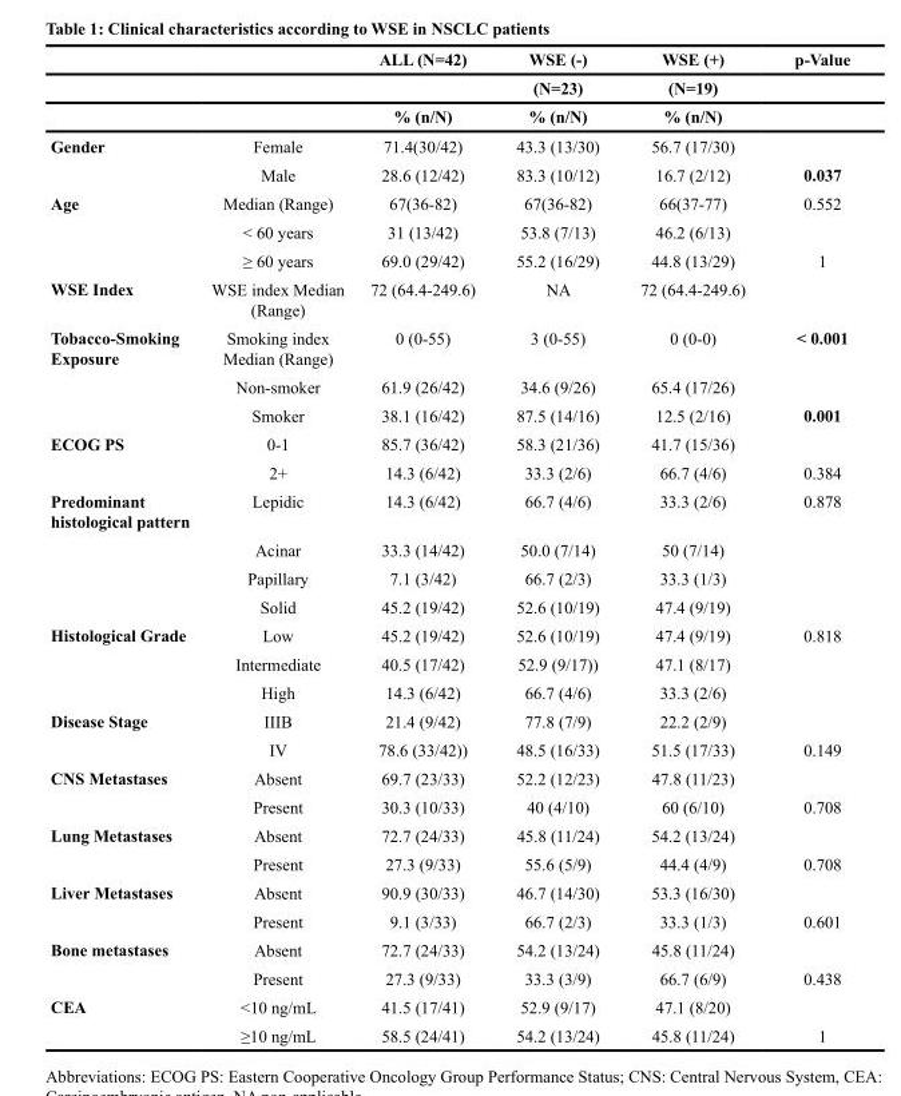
<table><thead><tr><td rowspan="3"></td><td rowspan="3"></td><td rowspan="3">ALL (N=42) % (n/N)</td><td rowspan="3">WSE (-) (N=23) % (n/N)</td><td rowspan="3">WSE (+) (N=19) % (n/N)</td><td rowspan="3">p-Value</td></tr><tr></tr><tr></tr></thead><tbody><tr><td rowspan="2">Gender</td><td>Female</td><td>71.4(30/42)</td><td>43.3 (13/30)</td><td>56.7 (17/30)</td><td></td></tr><tr><td>Male</td><td>28.6 (12/42)</td><td>83.3 (10/12)</td><td>16.7 (2/12)</td><td>0.037</td></tr><tr><td rowspan="3">Age</td><td>Median (Range)</td><td>67(36-82)</td><td>67(36-82)</td><td>66(37-77)</td><td>0.552</td></tr><tr><td>&lt; 60 years</td><td>31 (13/42)</td><td>53.8 (7/13)</td><td>46.2 (6/13)</td><td></td></tr><tr><td>≥ 60 years</td><td>69.0 (29/42)</td><td>55.2 (16/29)</td><td>44.8 (13/29)</td><td>1</td></tr><tr><td>WSE Index</td><td>WSE index Median (Range)</td><td>72 (64.4-249.6)</td><td>NA</td><td>72 (64.4-249.6)</td><td></td></tr><tr><td rowspan="3">Tobacco-Smoking Exposure</td><td>Smoking index Median (Range)</td><td>0 (0-55)</td><td>3 (0-55)</td><td>0 (0-0)</td><td>&lt; 0.001</td></tr><tr><td>Non-smoker</td><td>61.9 (26/42)</td><td>34.6 (9/26)</td><td>65.4 (17/26)</td><td></td></tr><tr><td>Smoker</td><td>38.1 (16/42)</td><td>87.5 (14/16)</td><td>12.5 (2/16)</td><td>0.001</td></tr><tr><td rowspan="2">ECOG PS</td><td>0-1</td><td>85.7 (36/42)</td><td>58.3 (21/36)</td><td>41.7 (15/36)</td><td></td></tr><tr><td>2+</td><td>14.3 (6/42)</td><td>33.3 (2/6)</td><td>66.7 (4/6)</td><td>0.384</td></tr><tr><td rowspan="4">Predominant histological pattern</td><td>Lepidic</td><td>14.3 (6/42)</td><td>66.7 (4/6)</td><td>33.3 (2/6)</td><td>0.878</td></tr><tr><td>Acinar</td><td>33.3 (14/42)</td><td>50.0 (7/14)</td><td>50 (7/14)</td><td></td></tr><tr><td>Papillary</td><td>7.1 (3/42)</td><td>66.7 (2/3)</td><td>33.3 (1/3)</td><td></td></tr><tr><td>Solid</td><td>45.2 (19/42)</td><td>52.6 (10/19)</td><td>47.4 (9/19)</td><td></td></tr><tr><td rowspan="3">Histological Grade</td><td>Low</td><td>45.2 (19/42)</td><td>52.6 (10/19)</td><td>47.4 (9/19)</td><td>0.818</td></tr><tr><td>Intermediate</td><td>40.5 (17/42)</td><td>52.9 (9/17))</td><td>47.1 (8/17)</td><td></td></tr><tr><td>High</td><td>14.3 (6/42)</td><td>66.7 (4/6)</td><td>33.3 (2/6)</td><td></td></tr><tr><td rowspan="2">Disease Stage</td><td>IIIB</td><td>21.4 (9/42)</td><td>77.8 (7/9)</td><td>22.2 (2/9)</td><td></td></tr><tr><td>IV</td><td>78.6 (33/42))</td><td>48.5 (16/33)</td><td>51.5 (17/33)</td><td>0.149</td></tr><tr><td rowspan="2">CNS Metastases</td><td>Absent</td><td>69.7 (23/33)</td><td>52.2 (12/23)</td><td>47.8 (11/23)</td><td></td></tr><tr><td>Present</td><td>30.3 (10/33)</td><td>40 (4/10)</td><td>60 (6/10)</td><td>0.708</td></tr><tr><td rowspan="2">Lung Metastases</td><td>Absent</td><td>72.7 (24/33)</td><td>45.8 (11/24)</td><td>54.2 (13/24)</td><td></td></tr><tr><td>Present</td><td>27.3 (9/33)</td><td>55.6 (5/9)</td><td>44.4 (4/9)</td><td>0.708</td></tr><tr><td rowspan="2">Liver Metastases</td><td>Absent</td><td>90.9 (30/33)</td><td>46.7 (14/30)</td><td>53.3 (16/30)</td><td></td></tr><tr><td>Present</td><td>9.1 (3/33)</td><td>66.7 (2/3)</td><td>33.3 (1/3)</td><td>0.601</td></tr><tr><td rowspan="2">Bone metastases</td><td>Absent</td><td>72.7 (24/33)</td><td>54.2 (13/24)</td><td>45.8 (11/24)</td><td></td></tr><tr><td>Present</td><td>27.3 (9/33)</td><td>33.3 (3/9)</td><td>66.7 (6/9)</td><td>0.438</td></tr><tr><td rowspan="2">CEA</td><td>&lt;10 ng/mL</td><td>41.5 (17/41)</td><td>52.9 (9/17)</td><td>47.1 (8/20)</td><td></td></tr><tr><td>≥10 ng/mL</td><td>58.5 (24/41)</td><td>54.2 (13/24)</td><td>45.8 (11/24)</td><td>1</td></tr></tbody></table>